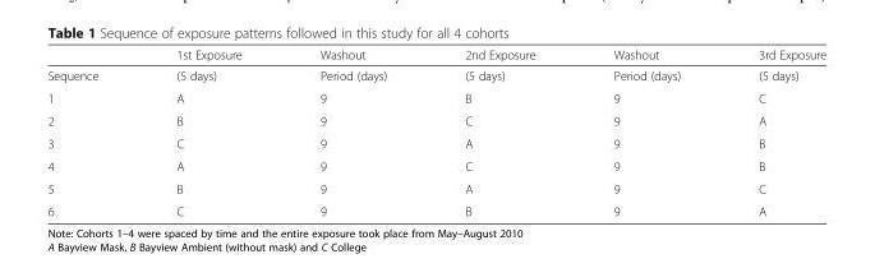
<table><thead><tr><td></td><td>1st Exposure</td><td>Washout</td><td>2nd Exposure</td><td>Washout</td><td>3rd Exposure</td></tr></thead><tbody><tr><td>Sequence</td><td>(5 days)</td><td>Period (days)</td><td>(5 days)</td><td>Period (days)</td><td>(5 days)</td></tr><tr><td>1</td><td>A</td><td>9</td><td>B</td><td>9</td><td>C</td></tr><tr><td>2</td><td>B</td><td>9</td><td>C</td><td>9</td><td>A</td></tr><tr><td>3</td><td>C</td><td>9</td><td>A</td><td>9</td><td>B</td></tr><tr><td>4</td><td>A</td><td>9</td><td>C</td><td>9</td><td>B</td></tr><tr><td>5</td><td>B</td><td>9</td><td>A</td><td>9</td><td>C</td></tr><tr><td>6</td><td>C</td><td>9</td><td>B</td><td>9</td><td>A</td></tr></tbody></table>